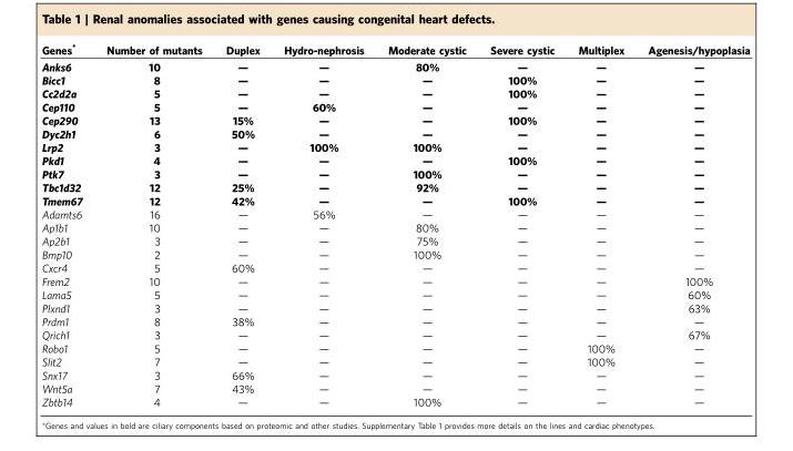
<table><thead><tr><td>Genes*</td><td>Number of mutants</td><td>Duplex</td><td>Hydro-nephrosis</td><td>Moderate cystic</td><td>Severe cystic</td><td>Multiplex</td><td>Agenesis/hypoplasia</td></tr></thead><tbody><tr><td>Anks6</td><td>10</td><td>—</td><td>—</td><td>80%</td><td>—</td><td>—</td><td>—</td></tr><tr><td>Bicc1</td><td>8</td><td>—</td><td>—</td><td>—</td><td>100%</td><td>—</td><td>—</td></tr><tr><td>Cc2d2a</td><td>5</td><td>—</td><td>—</td><td>—</td><td>100%</td><td>—</td><td>—</td></tr><tr><td>Cep110</td><td>5</td><td>—</td><td>60%</td><td>—</td><td>—</td><td>—</td><td>—</td></tr><tr><td>Cep290</td><td>13</td><td>15%</td><td>—</td><td>—</td><td>100%</td><td>—</td><td>—</td></tr><tr><td>Dyc2h1</td><td>6</td><td>50%</td><td>—</td><td>—</td><td>—</td><td>—</td><td>—</td></tr><tr><td>Lrp2</td><td>3</td><td>—</td><td>100%</td><td>100%</td><td>—</td><td>—</td><td>—</td></tr><tr><td>Pkd1</td><td>4</td><td>—</td><td>—</td><td>—</td><td>100%</td><td>—</td><td>—</td></tr><tr><td>Ptk7</td><td>3</td><td>—</td><td>—</td><td>100%</td><td>—</td><td>—</td><td>—</td></tr><tr><td>Tbc1d32</td><td>12</td><td>25%</td><td>—</td><td>92%</td><td>—</td><td>—</td><td>—</td></tr><tr><td>Tmem67</td><td>12</td><td>42%</td><td>—</td><td>—</td><td>100%</td><td>—</td><td>—</td></tr><tr><td>Adamts6</td><td>16</td><td>—</td><td>56%</td><td>—</td><td>—</td><td>—</td><td>—</td></tr><tr><td>Ap1b1</td><td>10</td><td>—</td><td>—</td><td>80%</td><td>—</td><td>—</td><td>—</td></tr><tr><td>Ap2b1</td><td>3</td><td>—</td><td>—</td><td>75%</td><td>—</td><td>—</td><td>—</td></tr><tr><td>Bmp10</td><td>2</td><td>—</td><td>—</td><td>100%</td><td>—</td><td>—</td><td>—</td></tr><tr><td>Cxcr4</td><td>5</td><td>60%</td><td>—</td><td>—</td><td>—</td><td>—</td><td>—</td></tr><tr><td>Frem2</td><td>10</td><td>—</td><td>—</td><td>—</td><td>—</td><td>—</td><td>100%</td></tr><tr><td>Lama5</td><td>5</td><td>—</td><td>—</td><td>—</td><td>—</td><td>—</td><td>60%</td></tr><tr><td>Plxnd1</td><td>3</td><td>—</td><td>—</td><td>—</td><td>—</td><td>—</td><td>63%</td></tr><tr><td>Prdm1</td><td>8</td><td>38%</td><td>—</td><td>—</td><td>—</td><td>—</td><td>—</td></tr><tr><td>Qrich1</td><td>3</td><td>—</td><td>—</td><td>—</td><td>—</td><td>—</td><td>67%</td></tr><tr><td>Robo1</td><td>5</td><td>—</td><td>—</td><td>—</td><td>—</td><td>100%</td><td>—</td></tr><tr><td>Slit2</td><td>7</td><td>—</td><td>—</td><td>—</td><td>—</td><td>100%</td><td>—</td></tr><tr><td>Snx17</td><td>3</td><td>66%</td><td>—</td><td>—</td><td>—</td><td>—</td><td>—</td></tr><tr><td>Wnt5a</td><td>7</td><td>43%</td><td>—</td><td>—</td><td>—</td><td>—</td><td>—</td></tr><tr><td>Zbtb14</td><td>4</td><td>—</td><td>—</td><td>100%</td><td>—</td><td>—</td><td>—</td></tr></tbody></table>